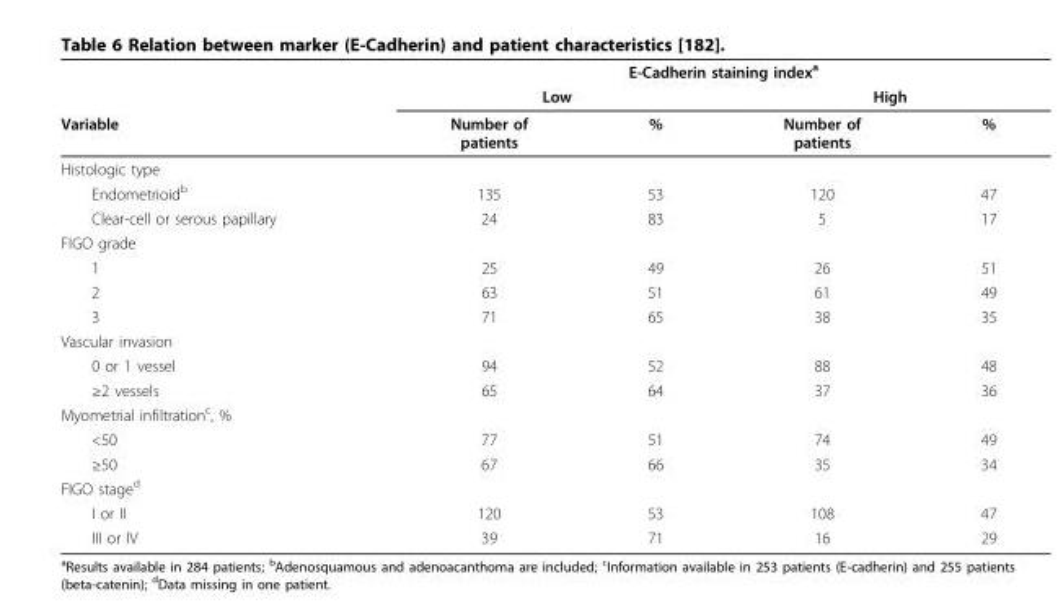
<table><thead><tr><td rowspan="3">Variable</td><td colspan="4">E-Cadherin staining index<sup>a</sup></td></tr><tr><td colspan="2">Low</td><td colspan="2">High</td></tr><tr><td>Number of patients</td><td>%</td><td>Number of patients</td><td>%</td></tr></thead><tbody><tr><td colspan="5">Histologic type</td></tr><tr><td>Endometrioid<sup>b</sup></td><td>135</td><td>53</td><td>120</td><td>47</td></tr><tr><td>Clear-cell or serous papillary</td><td>24</td><td>83</td><td>5</td><td>17</td></tr><tr><td colspan="5">FIGO grade</td></tr><tr><td>1</td><td>25</td><td>49</td><td>26</td><td>51</td></tr><tr><td>2</td><td>63</td><td>51</td><td>61</td><td>49</td></tr><tr><td>3</td><td>71</td><td>65</td><td>38</td><td>35</td></tr><tr><td colspan="5">Vascular invasion</td></tr><tr><td>0 or 1 vessel</td><td>94</td><td>52</td><td>88</td><td>48</td></tr><tr><td>≥2 vessels</td><td>65</td><td>64</td><td>37</td><td>36</td></tr><tr><td colspan="5">Myometrial infiltration<sup>c</sup>, %</td></tr><tr><td>&lt;50</td><td>77</td><td>51</td><td>74</td><td>49</td></tr><tr><td>≥50</td><td>67</td><td>66</td><td>35</td><td>34</td></tr><tr><td colspan="5">FIGO stage<sup>d</sup></td></tr><tr><td>I or II</td><td>120</td><td>53</td><td>108</td><td>47</td></tr><tr><td>III or IV</td><td>39</td><td>71</td><td>16</td><td>29</td></tr></tbody></table>